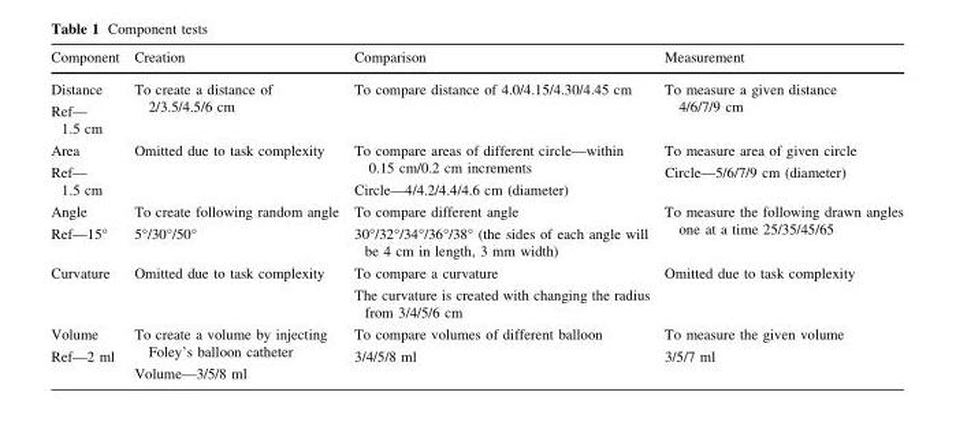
<table><thead><tr><td>Component</td><td>Creation</td><td>Comparison</td><td>Measurement</td></tr></thead><tbody><tr><td>Distance Ref— 1.5 cm</td><td>To create a distance of 2/3.5/4.5/6 cm</td><td>To compare distance of 4.0/4.15/4.30/4.45 cm</td><td>To measure a given distance 4/6/7/9 cm</td></tr><tr><td>Area Ref— 1.5 cm</td><td>Omitted due to task complexity</td><td>To compare areas of different circle—within 0.15 cm/0.2 cm increments Circle—4/4.2/4.4/4.6 cm (diameter)</td><td>To measure area of given circle Circle—5/6/7/9 cm (diameter)</td></tr><tr><td>Angle Ref—15°</td><td>To create following random angle 5°/30°/50°</td><td>To compare different angle 30°/32°/34°/36°/38° (the sides of each angle will be 4 cm in length, 3 mm width)</td><td>To measure the following drawn angles one at a time 25/35/45/65</td></tr><tr><td>Curvature</td><td>Omitted due to task complexity</td><td>To compare a curvature The curvature is created with changing the radius from 3/4/5/6 cm</td><td>Omitted due to task complexity</td></tr><tr><td>Volume Ref—2 ml</td><td>To create a volume by injecting Foley’s balloon catheter Volume—3/5/8 ml</td><td>To compare volumes of different balloon 3/4/5/8 ml</td><td>To measure the given volume 3/5/7 ml</td></tr></tbody></table>